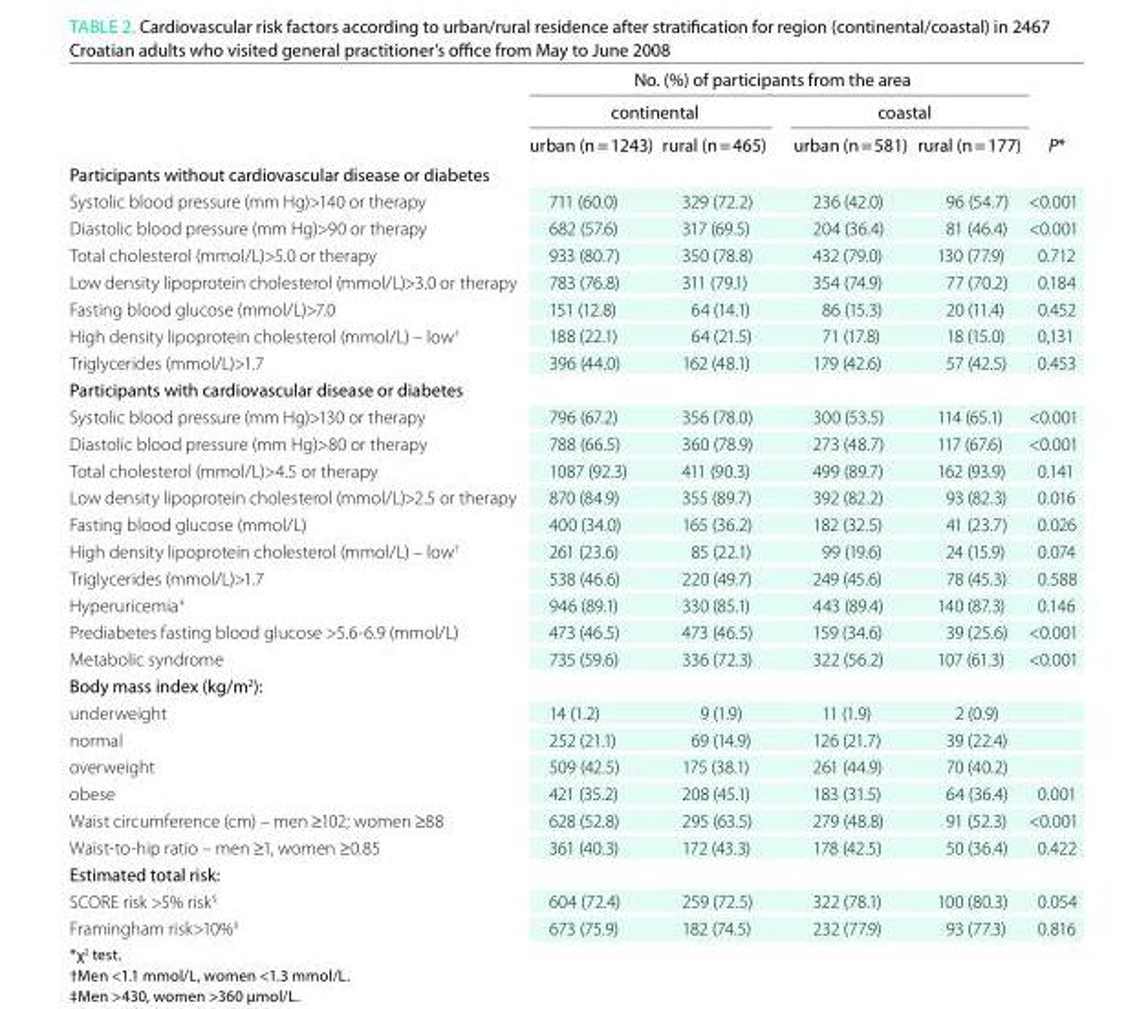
<table><thead><tr><td rowspan="3"></td><td colspan="4">No. (%) of participants from the area</td><td rowspan="3">P*</td></tr><tr><td colspan="2">continental</td><td colspan="2">coastal</td></tr><tr><td>urban (n = 1243)</td><td>rural (n = 465)</td><td>urban (n = 581)</td><td>rural (n = 177)</td></tr></thead><tbody><tr><td colspan="6">Participants without cardiovascular disease or diabetes</td></tr><tr><td>Systolic blood pressure (mm Hg)&gt;140 or therapy</td><td>711 (60.0)</td><td>329 (72.2)</td><td>236 (42.0)</td><td>96 (54.7)</td><td>&lt;0.001</td></tr><tr><td>Diastolic blood pressure (mm Hg)&gt;90 or therapy</td><td>682 (57.6)</td><td>317 (69.5)</td><td>204 (36.4)</td><td>81 (46.4)</td><td>&lt;0.001</td></tr><tr><td>Total cholesterol (mmol/L)&gt;5.0 or therapy</td><td>933 (80.7)</td><td>350 (78.8)</td><td>432 (79.0)</td><td>130 (77.9)</td><td>0.712</td></tr><tr><td>Low density lipoprotein cholesterol (mmol/L)&gt;3.0 or therapy</td><td>783 (76.8)</td><td>311 (79.1)</td><td>354 (74.9)</td><td>77 (70.2)</td><td>0.184</td></tr><tr><td>Fasting blood glucose (mmol/L)&gt;7.0</td><td>151 (12.8)</td><td>64 (14.1)</td><td>86 (15.3)</td><td>20 (11.4)</td><td>0.452</td></tr><tr><td>High density lipoprotein cholesterol (mmol/L) – low<sup>†</sup></td><td>188 (22.1)</td><td>64 (21.5)</td><td>71 (17.8)</td><td>18 (15.0)</td><td>0,131</td></tr><tr><td>Triglycerides (mmol/L)&gt;1.7</td><td>396 (44.0)</td><td>162 (48.1)</td><td>179 (42.6)</td><td>57 (42.5)</td><td>0.453</td></tr><tr><td colspan="6">Participants with cardiovascular disease or diabetes</td></tr><tr><td>Systolic blood pressure (mm Hg)&gt;130 or therapy</td><td>796 (67.2)</td><td>356 (78.0)</td><td>300 (53.5)</td><td>114 (65.1)</td><td>&lt;0.001</td></tr><tr><td>Diastolic blood pressure (mm Hg)&gt;80 or therapy</td><td>788 (66.5)</td><td>360 (78.9)</td><td>273 (48.7)</td><td>117 (67.6)</td><td>&lt;0.001</td></tr><tr><td>Total cholesterol (mmol/L)&gt;4.5 or therapy</td><td>1087 (92.3)</td><td>411 (90.3)</td><td>499 (89.7)</td><td>162 (93.9)</td><td>0.141</td></tr><tr><td>Low density lipoprotein cholesterol (mmol/L)&gt;2.5 or therapy</td><td>870 (84.9)</td><td>355 (89.7)</td><td>392 (82.2)</td><td>93 (82.3)</td><td>0.016</td></tr><tr><td>Fasting blood glucose (mmol/L)</td><td>400 (34.0)</td><td>165 (36.2)</td><td>182 (32.5)</td><td>41 (23.7)</td><td>0.026</td></tr><tr><td>High density lipoprotein cholesterol (mmol/L) – low<sup>†</sup></td><td>261 (23.6)</td><td>85 (22.1)</td><td>99 (19.6)</td><td>24 (15.9)</td><td>0.074</td></tr><tr><td>Triglycerides (mmol/L)&gt;1.7</td><td>538 (46.6)</td><td>220 (49.7)</td><td>249 (45.6)</td><td>78 (45.3)</td><td>0.588</td></tr><tr><td>Hyperuricemia<sup>‡</sup></td><td>946 (89.1)</td><td>330 (85.1)</td><td>443 (89.4)</td><td>140 (87.3)</td><td>0.146</td></tr><tr><td>Prediabetes fasting blood glucose &gt;5.6-6.9 (mmol/L)</td><td>473 (46.5)</td><td>473 (46.5)</td><td>159 (34.6)</td><td>39 (25.6)</td><td>&lt;0.001</td></tr><tr><td>Metabolic syndrome</td><td>735 (59.6)</td><td>336 (72.3)</td><td>322 (56.2)</td><td>107 (61.3)</td><td>&lt;0.001</td></tr><tr><td colspan="6">Body mass index (kg/m<sup>2</sup>):</td></tr><tr><td>underweight</td><td>14 (1.2)</td><td>9 (1.9)</td><td>11 (1.9)</td><td>2 (0.9)</td><td></td></tr><tr><td>normal</td><td>252 (21.1)</td><td>69 (14.9)</td><td>126 (21.7)</td><td>39 (22.4)</td><td></td></tr><tr><td>overweight</td><td>509 (42.5)</td><td>175 (38.1)</td><td>261 (44.9)</td><td>70 (40.2)</td><td></td></tr><tr><td>obese</td><td>421 (35.2)</td><td>208 (45.1)</td><td>183 (31.5)</td><td>64 (36.4)</td><td>0.001</td></tr><tr><td>Waist circumference (cm) – men ≥102; women ≥88</td><td>628 (52.8)</td><td>295 (63.5)</td><td>279 (48.8)</td><td>91 (52.3)</td><td>&lt;0.001</td></tr><tr><td>Waist-to-hip ratio – men ≥1, women ≥0.85</td><td>361 (40.3)</td><td>172 (43.3)</td><td>178 (42.5)</td><td>50 (36.4)</td><td>0.422</td></tr><tr><td colspan="6">estimated total risk:</td></tr><tr><td>SCORE risk &gt;5% risk<sup>§</sup></td><td>604 (72.4)</td><td>259 (72.5)</td><td>322 (78.1)</td><td>100 (80.3)</td><td>0.054</td></tr><tr><td>Framingham risk&gt;10%II</td><td>673 (75.9)</td><td>182 (74.5)</td><td>232 (77.9)</td><td>93 (77.3)</td><td>0.816</td></tr></tbody></table>